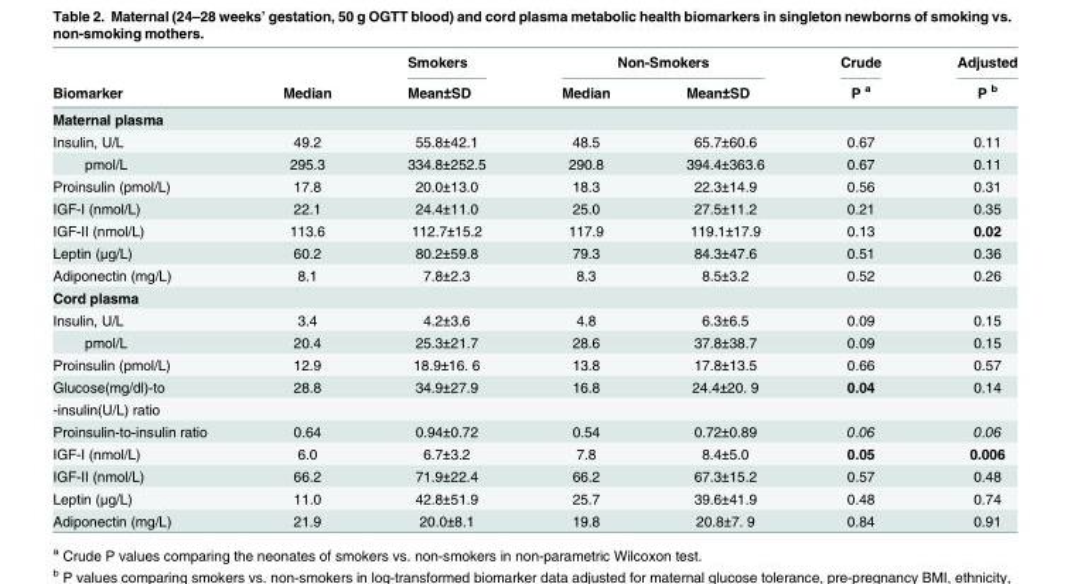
<table><thead><tr><td rowspan="2">Biomarker</td><td rowspan="2">Median</td><td rowspan="2">Smokers Mean±SD</td><td colspan="2">Non-Smokers</td><td rowspan="2">Crude P <sup>a</sup></td><td rowspan="2">Adjusted P <sup>b</sup></td></tr><tr><td>Median</td><td>Mean±SD</td></tr></thead><tbody><tr><td colspan="7">Maternal plasma</td></tr><tr><td>Insulin, U/L</td><td>49.2</td><td>55.8±42.1</td><td>48.5</td><td>65.7±60.6</td><td>0.67</td><td>0.11</td></tr><tr><td>pmol/L</td><td>295.3</td><td>334.8±252.5</td><td>290.8</td><td>394.4±363.6</td><td>0.67</td><td>0.11</td></tr><tr><td>Proinsulin (pmol/L)</td><td>17.8</td><td>20.0±13.0</td><td>18.3</td><td>22.3±14.9</td><td>0.56</td><td>0.31</td></tr><tr><td>IGF-I (nmol/L)</td><td>22.1</td><td>24.4±11.0</td><td>25.0</td><td>27.5±11.2</td><td>0.21</td><td>0.35</td></tr><tr><td>IGF-II (nmol/L)</td><td>113.6</td><td>112.7±15.2</td><td>117.9</td><td>119.1±17.9</td><td>0.13</td><td>0.02</td></tr><tr><td>Leptin (μg/L)</td><td>60.2</td><td>80.2±59.8</td><td>79.3</td><td>84.3±47.6</td><td>0.51</td><td>0.36</td></tr><tr><td>Adiponectin (mg/L)</td><td>8.1</td><td>7.8±2.3</td><td>8.3</td><td>8.5±3.2</td><td>0.52</td><td>0.26</td></tr><tr><td colspan="7">Cord plasma</td></tr><tr><td>Insulin, U/L</td><td>3.4</td><td>4.2±3.6</td><td>4.8</td><td>6.3±6.5</td><td>0.09</td><td>0.15</td></tr><tr><td>pmol/L</td><td>20.4</td><td>25.3±21.7</td><td>28.6</td><td>37.8±38.7</td><td>0.09</td><td>0.15</td></tr><tr><td>Proinsulin (pmol/L)</td><td>12.9</td><td>18.9±16. 6</td><td>13.8</td><td>17.8±13.5</td><td>0.66</td><td>0.57</td></tr><tr><td>Glucose(mg/dl)-to</td><td>28.8</td><td>34.9±27.9</td><td>16.8</td><td>24.4±20. 9</td><td>0.04</td><td>0.14</td></tr><tr><td colspan="7">-insulin(U/L) ratio</td></tr><tr><td>Proinsulin-to-insulin ratio</td><td>0.64</td><td>0.94±0.72</td><td>0.54</td><td>0.72±0.89</td><td>0.06</td><td>0.06</td></tr><tr><td>IGF-I (nmol/L)</td><td>6.0</td><td>6.7±3.2</td><td>7.8</td><td>8.4±5.0</td><td>0.05</td><td>0.006</td></tr><tr><td>IGF-II (nmol/L)</td><td>66.2</td><td>71.9±22.4</td><td>66.2</td><td>67.3±15.2</td><td>0.57</td><td>0.48</td></tr><tr><td>Leptin (μg/L)</td><td>11.0</td><td>42.8±51.9</td><td>25.7</td><td>39.6±41.9</td><td>0.48</td><td>0.74</td></tr><tr><td>Adiponectin (mg/L)</td><td>21.9</td><td>20.0±8.1</td><td>19.8</td><td>20.8±7. 9</td><td>0.84</td><td>0.91</td></tr></tbody></table>